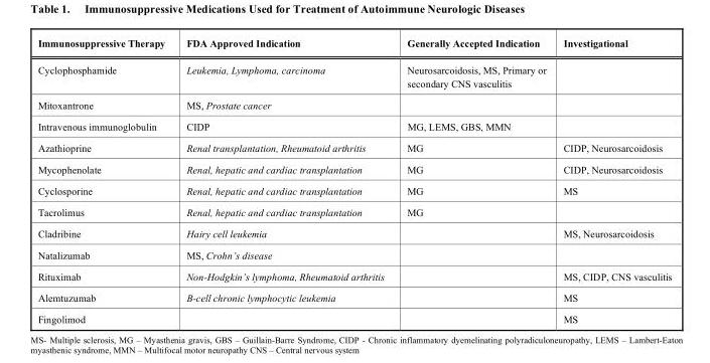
<table><thead><tr><td>Immunosuppressive Therapy</td><td>FDA Approved Indication</td><td>Generally Accepted Indication</td><td>Investigational</td></tr></thead><tbody><tr><td>Cyclophosphamide</td><td>Leukemia, Lymphoma, carcinoma</td><td>Neurosarcoidosis, MS, Primary or secondary CNS vasculitis</td><td></td></tr><tr><td>Mitoxantrone</td><td>MS, Prostate cancer</td><td></td><td></td></tr><tr><td>Intravenous immunoglobulin</td><td>CIDP</td><td>MG, LEMS, GBS, MMN</td><td></td></tr><tr><td>Azathioprine</td><td>Renal transplantation, Rheumatoid arthritis</td><td>MG</td><td>CIDP, Neurosarcoidosis</td></tr><tr><td>Mycophenolate</td><td>Renal, hepatic and cardiac transplantation</td><td>MG</td><td>CIDP, Neurosarcoidosis</td></tr><tr><td>Cyclosporine</td><td>Renal, hepatic and cardiac transplantation</td><td>MG</td><td>MS</td></tr><tr><td>Tacrolimus</td><td>Renal, hepatic and cardiac transplantation</td><td>MG</td><td></td></tr><tr><td>Cladribine</td><td>Hairy cell leukemia</td><td></td><td>MS, Neurosarcoidosis</td></tr><tr><td>Natalizumab</td><td>MS, Crohn’s disease</td><td></td><td></td></tr><tr><td>Rituximab</td><td>Non-Hodgkin’s lymphoma, Rheumatoid arthritis</td><td></td><td>MS, CIDP, CNS vasculitis</td></tr><tr><td>Alemtuzumab</td><td>B-cell chronic lymphocytic leukemia</td><td></td><td>MS</td></tr><tr><td>Fingolimod</td><td></td><td></td><td>MS</td></tr></tbody></table>